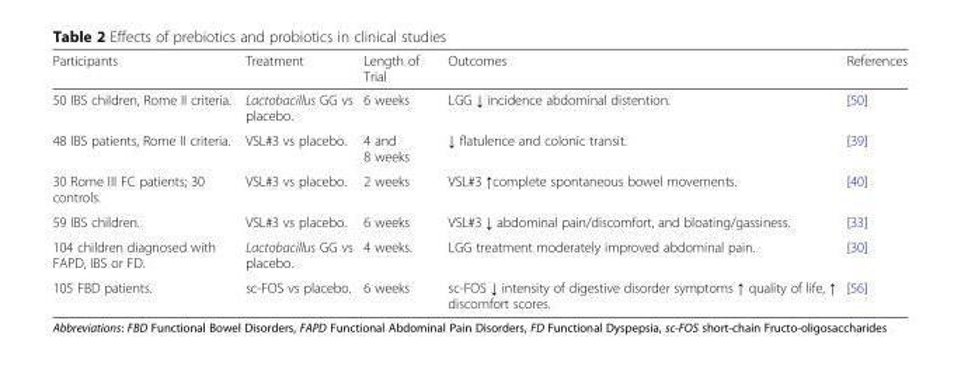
<table><thead><tr><td>Participants</td><td>Treatment</td><td>Length of Trial</td><td>Outcomes</td><td>References</td></tr></thead><tbody><tr><td>50 IBS children, Rome II criteria.</td><td>Lactobacillus GG vs placebo.</td><td>6 weeks</td><td>LGG ↓ incidence abdominal distention.</td><td>[50]</td></tr><tr><td>48 IBS patients, Rome II criteria.</td><td>VSL#3 vs placebo.</td><td>4 and 8 weeks</td><td>↓ flatulence and colonic transit.</td><td>[39]</td></tr><tr><td>30 Rome III FC patients; 30 controls.</td><td>VSL#3 vs placebo.</td><td>2 weeks</td><td>VSL#3 ↑complete spontaneous bowel movements.</td><td>[40]</td></tr><tr><td>59 IBS children.</td><td>VSL#3 vs placebo.</td><td>6 weeks</td><td>VSL#3 ↓ abdominal pain/discomfort, and bloating/gassiness.</td><td>[33]</td></tr><tr><td>104 children diagnosed with FAPD, IBS or FD.</td><td>Lactobacillus GG vs placebo.</td><td>4 weeks.</td><td>LGG treatment moderately improved abdominal pain.</td><td>[30]</td></tr><tr><td>105 FBD patients.</td><td>sc-FOS vs placebo.</td><td>6 weeks</td><td>sc-FOS ↓ intensity of digestive disorder symptoms ↑ quality of life, ↑ discomfort scores.</td><td>[56]</td></tr></tbody></table>